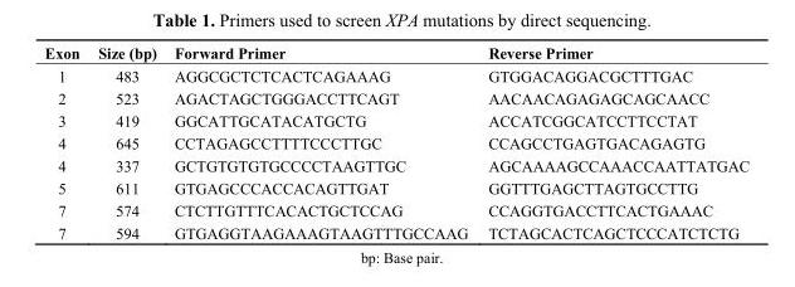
<table><thead><tr><td>Exon</td><td>Size (bp)</td><td>Forward Primer</td><td>Reverse Primer</td></tr></thead><tbody><tr><td>1</td><td>483</td><td>AGGCGCTCTCACTCAGAAAG</td><td>GTGGACAGGACGCTTTGAC</td></tr><tr><td>2</td><td>523</td><td>AGACTAGCTGGGACCTTCAGT</td><td>AACAACAGAGAGCAGCAACC</td></tr><tr><td>3</td><td>419</td><td>GGCATTGCATACATGCTG</td><td>ACCATCGGCATCCTTCCTAT</td></tr><tr><td>4</td><td>645</td><td>CCTAGAGCCTTTTCCCTTGC</td><td>CCAGCCTGAGTGACAGAGTG</td></tr><tr><td>4</td><td>337</td><td>GCTGTGTGTGCCCCTAAGTTGC</td><td>AGCAAAAGCCAAACCAATTATGAC</td></tr><tr><td>5</td><td>611</td><td>GTGAGCCCACCACAGTTGAT</td><td>GGTTTGAGCTTAGTGCCTTG</td></tr><tr><td>7</td><td>574</td><td>CTCTTGTTTCACACTGCTCCAG</td><td>CCAGGTGACCTTCACTGAAAC</td></tr><tr><td>7</td><td>594</td><td>GTGAGGTAAGAAAGTAAGTTTGCCAAG</td><td>TCTAGCACTCAGCTCCCATCTCTG</td></tr></tbody></table>